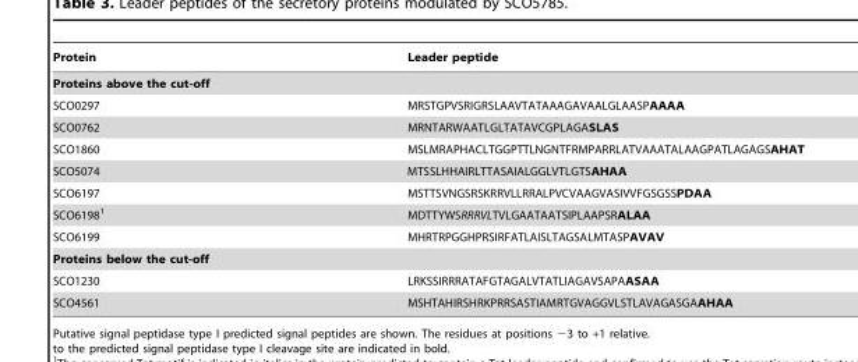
<table><thead><tr><td>Protein</td><td>Leader peptide</td></tr></thead><tbody><tr><td colspan="2">Proteins above the cut-off</td></tr><tr><td>SCO0297</td><td>MRSTGPVSRIGRSLAAVTATAAAGAVAALGLAASPAAAA</td></tr><tr><td>SCO0762</td><td>MRNTARWAATLGLTATAVCGPLAGASLAS</td></tr><tr><td>SCO1860</td><td>MSLMRAPHACLTGGPTTLNGNTFRMPARRLATVAAATALAAGPATLAGAGSAHAT</td></tr><tr><td>SCO5074</td><td>MTSSLHHAIRLTTASAIALGGLVTLGTSAHAA</td></tr><tr><td>SCO6197</td><td>MSTTSVNGSRSKRRVLLRRALPVCVAAGVASIVVFGSGSSPDAA</td></tr><tr><td>SCO6198<sup>1</sup></td><td>MDTTYWSRRRVLTVLGAATAATSIPLAAPSRALAA</td></tr><tr><td>SCO6199</td><td>MHRTRPGGHPRSIRFATLAISLTAGSALMTASPAVAV</td></tr><tr><td colspan="2">Proteins below the cut-off</td></tr><tr><td>SCO1230</td><td>LRKSSIRRRATAFGTAGALVTATLIAGAVSAPAASAA</td></tr><tr><td>SCO4561</td><td>MSHTAHIRSHRKPRRSASTIAMRTGVAGGVLSTLAVAGASGAAHAA</td></tr></tbody></table>